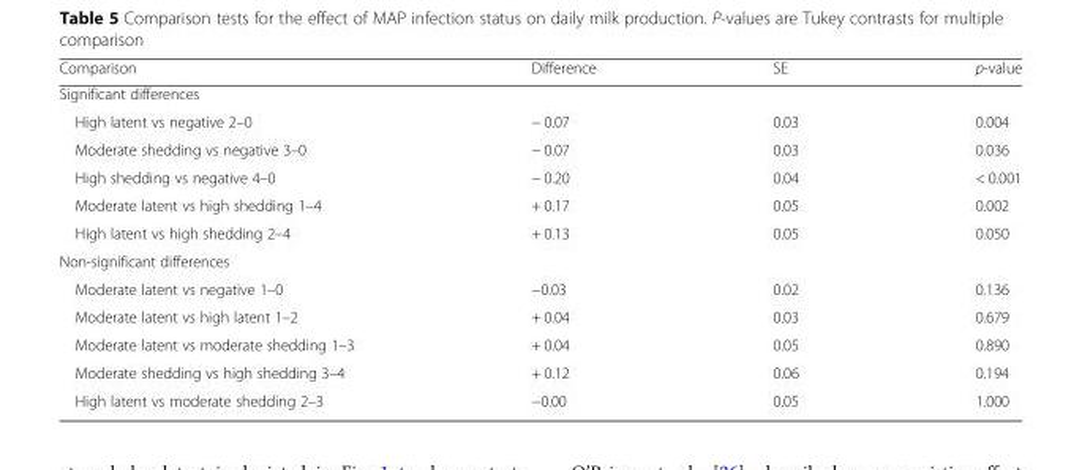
<table><thead><tr><td>Comparison</td><td>Difference</td><td>SE</td><td>p-value</td></tr></thead><tbody><tr><td colspan="4">Significant differences</td></tr><tr><td>High latent vs negative 2–0</td><td>− 0.07</td><td>0.03</td><td>0.004</td></tr><tr><td>Moderate shedding vs negative 3–0</td><td>− 0.07</td><td>0.03</td><td>0.036</td></tr><tr><td>High shedding vs negative 4–0</td><td>− 0.20</td><td>0.04</td><td>&lt; 0.001</td></tr><tr><td>Moderate latent vs high shedding 1–4</td><td>+ 0.17</td><td>0.05</td><td>0.002</td></tr><tr><td>High latent vs high shedding 2–4</td><td>+ 0.13</td><td>0.05</td><td>0.050</td></tr><tr><td colspan="4">Non-significant differences</td></tr><tr><td>Moderate latent vs negative 1–0</td><td>−0.03</td><td>0.02</td><td>0.136</td></tr><tr><td>Moderate latent vs high latent 1–2</td><td>+ 0.04</td><td>0.03</td><td>0.679</td></tr><tr><td>Moderate latent vs moderate shedding 1–3</td><td>+ 0.04</td><td>0.05</td><td>0.890</td></tr><tr><td>Moderate shedding vs high shedding 3–4</td><td>+ 0.12</td><td>0.06</td><td>0.194</td></tr><tr><td>High latent vs moderate shedding 2–3</td><td>−0.00</td><td>0.05</td><td>1.000</td></tr></tbody></table>